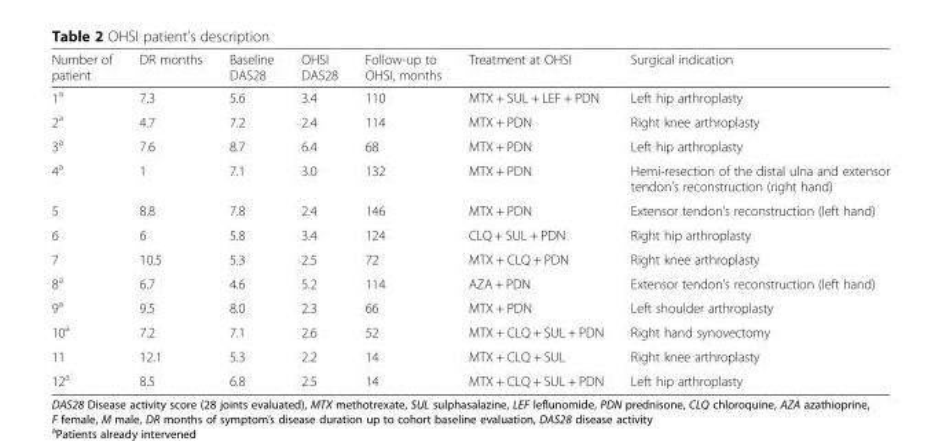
<table><thead><tr><td>Number of patient</td><td>DR months</td><td>Baseline DAS28</td><td>OHSI DAS28</td><td>Follow-up to OHSI, months</td><td>Treatment at OHSI</td><td>Surgical indication</td></tr></thead><tbody><tr><td>1<sup>a</sup></td><td>7.3</td><td>5.6</td><td>3.4</td><td>110</td><td>MTX + SUL + LEF + PDN</td><td>Left hip arthroplasty</td></tr><tr><td>2<sup>a</sup></td><td>4.7</td><td>7.2</td><td>2.4</td><td>114</td><td>MTX + PDN</td><td>Right knee arthroplasty</td></tr><tr><td>3<sup>a</sup></td><td>7.6</td><td>8.7</td><td>6.4</td><td>68</td><td>MTX + PDN</td><td>Left hip arthroplasty</td></tr><tr><td>4<sup>a</sup></td><td>1</td><td>7.1</td><td>3.0</td><td>132</td><td>MTX + PDN</td><td>Hemi-resection of the distal ulna and extensor tendon’s reconstruction (right hand)</td></tr><tr><td>5</td><td>8.8</td><td>7.8</td><td>2.4</td><td>146</td><td>MTX + PDN</td><td>Extensor tendon’s reconstruction (left hand)</td></tr><tr><td>6</td><td>6</td><td>5.8</td><td>3.4</td><td>124</td><td>CLQ + SUL + PDN</td><td>Right hip arthroplasty</td></tr><tr><td>7</td><td>10.5</td><td>5.3</td><td>2.5</td><td>72</td><td>MTX + CLQ + PDN</td><td>Right knee arthroplasty</td></tr><tr><td>8<sup>a</sup></td><td>6.7</td><td>4.6</td><td>5.2</td><td>114</td><td>AZA + PDN</td><td>Extensor tendon’s reconstruction (left hand)</td></tr><tr><td>9<sup>a</sup></td><td>9.5</td><td>8.0</td><td>2.3</td><td>66</td><td>MTX + PDN</td><td>Left shoulder arthroplasty</td></tr><tr><td>10<sup>a</sup></td><td>7.2</td><td>7.1</td><td>2.6</td><td>52</td><td>MTX + CLQ + SUL + PDN</td><td>Right hand synovectomy</td></tr><tr><td>11</td><td>12.1</td><td>5.3</td><td>2.2</td><td>14</td><td>MTX + CLQ + SUL</td><td>Right knee arthroplasty</td></tr><tr><td>12<sup>a</sup></td><td>8.5</td><td>6.8</td><td>2.5</td><td>14</td><td>MTX + CLQ + SUL + PDN</td><td>Left hip arthroplasty</td></tr></tbody></table>